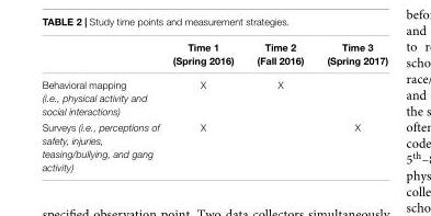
<table><thead><tr><td></td><td>Time 1 (Spring 2016)</td><td>Time 2 (Fall 2016)</td><td>Time 3 (Spring 2017)</td></tr></thead><tbody><tr><td>Behavioral mapping (i.e., physical activity and social interactions)</td><td>X</td><td>X</td><td></td></tr><tr><td>Surveys (i.e., perceptions of safety, injuries, teasing/bullying, and gang activity)</td><td>X</td><td></td><td>X</td></tr></tbody></table>